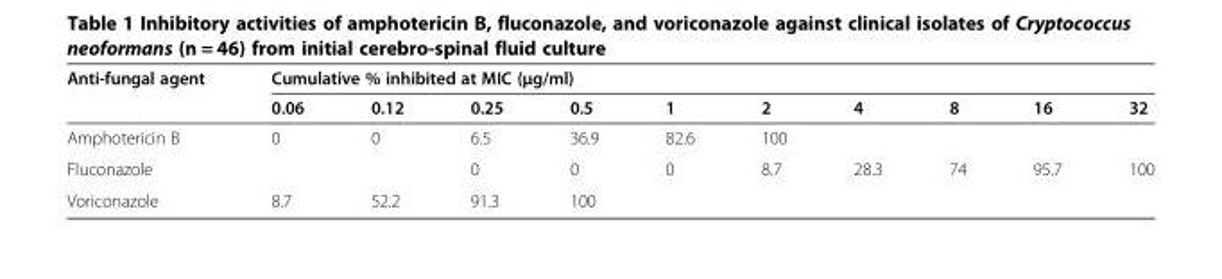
<table><thead><tr><td rowspan="2">Anti-fungal agent</td><td colspan="10">Cumulative % inhibited at MIC (μg/ml)</td></tr><tr><td>0.06</td><td>0.12</td><td>0.25</td><td>0.5</td><td>1</td><td>2</td><td>4</td><td>8</td><td>16</td><td>32</td></tr></thead><tbody><tr><td>Amphotericin B</td><td>0</td><td>0</td><td>6.5</td><td>36.9</td><td>82.6</td><td>100</td><td></td><td></td><td></td><td></td></tr><tr><td>Fluconazole</td><td></td><td></td><td>0</td><td>0</td><td>0</td><td>8.7</td><td>28.3</td><td>74</td><td>95.7</td><td>100</td></tr><tr><td>Voriconazole</td><td>8.7</td><td>52.2</td><td>91.3</td><td>100</td><td></td><td></td><td></td><td></td><td></td><td></td></tr></tbody></table>